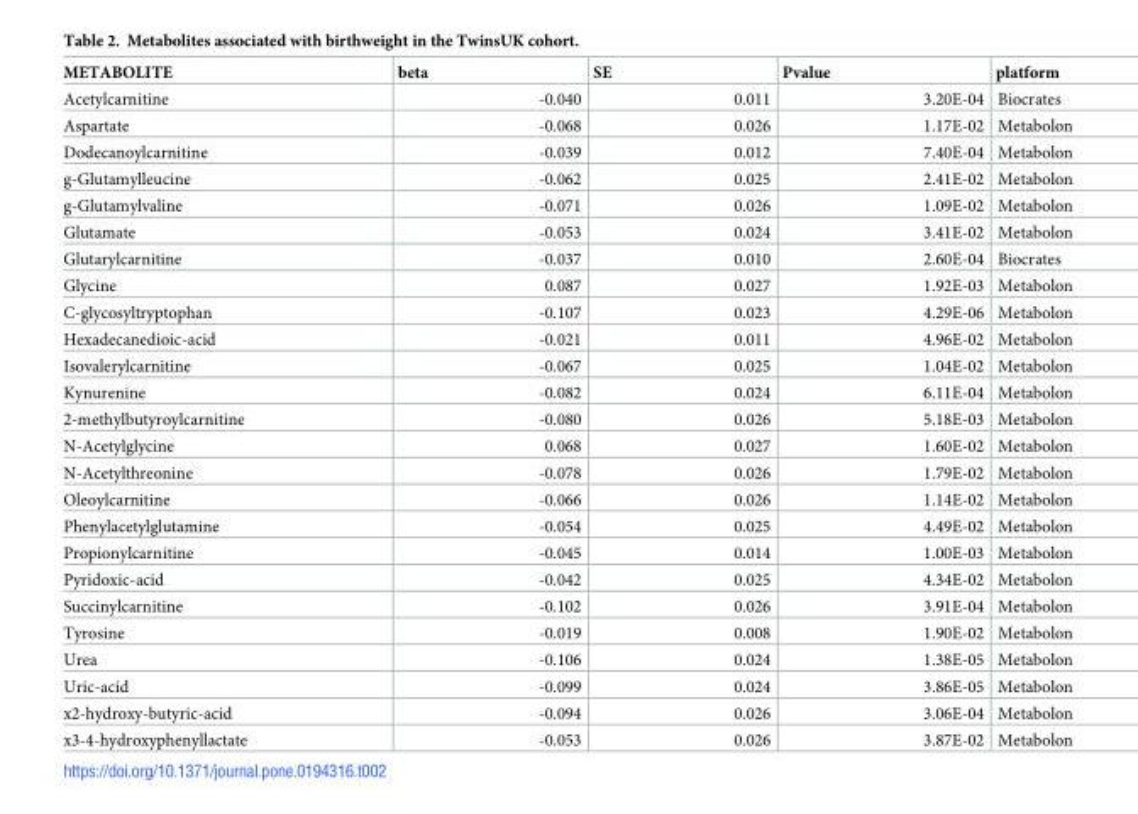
<table><thead><tr><td>METABOLITE</td><td>beta</td><td>SE</td><td>Pvalue</td><td>platform</td></tr></thead><tbody><tr><td>Acetylcarnitine</td><td>-0.040</td><td>0.011</td><td>3.20E-04</td><td>Biocrates</td></tr><tr><td>Aspartate</td><td>-0.068</td><td>0.026</td><td>1.17E-02</td><td>Metabolon</td></tr><tr><td>Dodecanoylcarnitine</td><td>-0.039</td><td>0.012</td><td>7.40E-04</td><td>Metabolon</td></tr><tr><td>g-Glutamylleucine</td><td>-0.062</td><td>0.025</td><td>2.41E-02</td><td>Metabolon</td></tr><tr><td>g-Glutamylvaline</td><td>-0.071</td><td>0.026</td><td>1.09E-02</td><td>Metabolon</td></tr><tr><td>Glutamate</td><td>-0.053</td><td>0.024</td><td>3.41E-02</td><td>Metabolon</td></tr><tr><td>Glutarylcarnitine</td><td>-0.037</td><td>0.010</td><td>2.60E-04</td><td>Biocrates</td></tr><tr><td>Glycine</td><td>0.087</td><td>0.027</td><td>1.92E-03</td><td>Metabolon</td></tr><tr><td>C-glycosyltryptophan</td><td>-0.107</td><td>0.023</td><td>4.29E-06</td><td>Metabolon</td></tr><tr><td>Hexadecanedioic-acid</td><td>-0.021</td><td>0.011</td><td>4.96E-02</td><td>Metabolon</td></tr><tr><td>Isovalerylcarnitine</td><td>-0.067</td><td>0.025</td><td>1.04E-02</td><td>Metabolon</td></tr><tr><td>Kynurenine</td><td>-0.082</td><td>0.024</td><td>6.11E-04</td><td>Metabolon</td></tr><tr><td>2-methylbutyroylcarnitine</td><td>-0.080</td><td>0.026</td><td>5.18E-03</td><td>Metabolon</td></tr><tr><td>N-Acetylglycine</td><td>0.068</td><td>0.027</td><td>1.60E-02</td><td>Metabolon</td></tr><tr><td>N-Acetylthreonine</td><td>-0.078</td><td>0.026</td><td>1.79E-02</td><td>Metabolon</td></tr><tr><td>Oleoylcarnitine</td><td>-0.066</td><td>0.026</td><td>1.14E-02</td><td>Metabolon</td></tr><tr><td>Phenylacetylglutamine</td><td>-0.054</td><td>0.025</td><td>4.49E-02</td><td>Metabolon</td></tr><tr><td>Propionylcarnitine</td><td>-0.045</td><td>0.014</td><td>1.00E-03</td><td>Metabolon</td></tr><tr><td>Pyridoxic-acid</td><td>-0.042</td><td>0.025</td><td>4.34E-02</td><td>Metabolon</td></tr><tr><td>Succinylcarnitine</td><td>-0.102</td><td>0.026</td><td>3.91E-04</td><td>Metabolon</td></tr><tr><td>Tyrosine</td><td>-0.019</td><td>0.008</td><td>1.90E-02</td><td>Metabolon</td></tr><tr><td>Urea</td><td>-0.106</td><td>0.024</td><td>1.38E-05</td><td>Metabolon</td></tr><tr><td>Uric-acid</td><td>-0.099</td><td>0.024</td><td>3.86E-05</td><td>Metabolon</td></tr><tr><td>x2-hydroxy-butyric-acid</td><td>-0.094</td><td>0.026</td><td>3.06E-04</td><td>Metabolon</td></tr><tr><td>x3-4-hydroxyphenyllactate</td><td>-0.053</td><td>0.026</td><td>3.87E-02</td><td>Metabolon</td></tr></tbody></table>